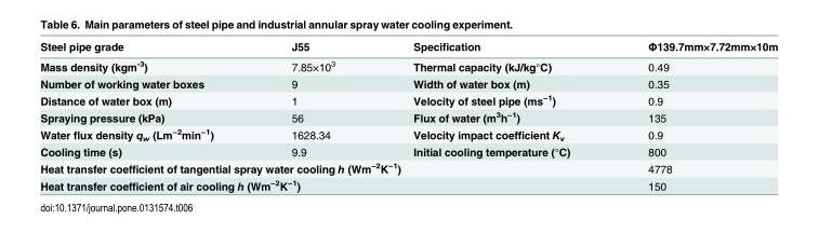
<table><thead><tr><td>Steel pipe grade</td><td>J55</td><td>Specification</td><td>Φ139.7mm×7.72mm×10m</td></tr></thead><tbody><tr><td>Mass density (kgm<sup>-3</sup>)</td><td>7.85×10<sup>3</sup></td><td>Thermal capacity (kJ/kg°C)</td><td>0.49</td></tr><tr><td>Number of working water boxes</td><td>9</td><td>Width of water box (m)</td><td>0.35</td></tr><tr><td>Distance of water box (m)</td><td>1</td><td>Velocity of steel pipe (ms<sup>−1</sup>)</td><td>0.9</td></tr><tr><td>Spraying pressure (kPa)</td><td>56</td><td>Flux of water (m<sup>3</sup>h<sup>−1</sup>)</td><td>135</td></tr><tr><td>Water flux density q<sub>w</sub> (Lm<sup>−2</sup>min<sup>−1</sup>)</td><td>1628.34</td><td>Velocity impact coefficient K<sub>v</sub></td><td>0.9</td></tr><tr><td>Cooling time (s)</td><td>9.9</td><td>Initial cooling temperature (°C)</td><td>800</td></tr><tr><td colspan="3">Heat transfer coefficient of tangential spray water cooling h (Wm<sup>−2</sup>K<sup>−1</sup>)</td><td>4778</td></tr><tr><td colspan="3">Heat transfer coefficient of air cooling h (Wm<sup>−2</sup>K<sup>−1</sup>)</td><td>150</td></tr></tbody></table>